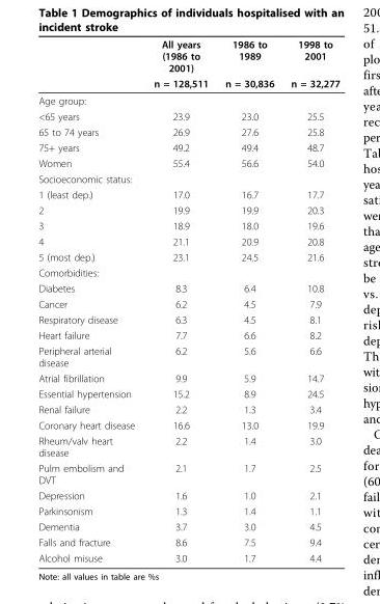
<table><thead><tr><td rowspan="2"></td><td rowspan="2">All years (1986 to 2001) n = 128,511</td><td rowspan="2">1986 to 1989 n = 30,836</td><td rowspan="2">1998 to 2001 n = 32,277</td></tr><tr></tr></thead><tbody><tr><td colspan="4">Age group:</td></tr><tr><td>&lt;65 years</td><td>23.9</td><td>23.0</td><td>25.5</td></tr><tr><td>65 to 74 years</td><td>26.9</td><td>27.6</td><td>25.8</td></tr><tr><td>75+ years</td><td>49.2</td><td>49.4</td><td>48.7</td></tr><tr><td>Women</td><td>55.4</td><td>56.6</td><td>54.0</td></tr><tr><td colspan="4">Socioeconomic status:</td></tr><tr><td>1 (least dep.)</td><td>17.0</td><td>16.7</td><td>17.7</td></tr><tr><td>2</td><td>19.9</td><td>19.9</td><td>20.3</td></tr><tr><td>3</td><td>18.9</td><td>18.0</td><td>19.6</td></tr><tr><td>4</td><td>21.1</td><td>20.9</td><td>20.8</td></tr><tr><td>5 (most dep.)</td><td>23.1</td><td>24.5</td><td>21.6</td></tr><tr><td colspan="4">Comorbidities:</td></tr><tr><td>Diabetes</td><td>8.3</td><td>6.4</td><td>10.8</td></tr><tr><td>Cancer</td><td>6.2</td><td>4.5</td><td>7.9</td></tr><tr><td>Respiratory disease</td><td>6.3</td><td>4.5</td><td>8.1</td></tr><tr><td>Heart failure</td><td>7.7</td><td>6.6</td><td>8.2</td></tr><tr><td>Peripheral arterial disease</td><td>6.2</td><td>5.6</td><td>6.6</td></tr><tr><td>Atrial fibrillation</td><td>9.9</td><td>5.9</td><td>14.7</td></tr><tr><td>Essential hypertension</td><td>15.2</td><td>8.9</td><td>24.5</td></tr><tr><td>Renal failure</td><td>2.2</td><td>1.3</td><td>3.4</td></tr><tr><td>Coronary heart disease</td><td>16.6</td><td>13.0</td><td>19.9</td></tr><tr><td>Rheum/valv heart disease</td><td>2.2</td><td>1.4</td><td>3.0</td></tr><tr><td>Pulm embolism and DVT</td><td>2.1</td><td>1.7</td><td>2.5</td></tr><tr><td>Depression</td><td>1.6</td><td>1.0</td><td>2.1</td></tr><tr><td>Parkinsonism</td><td>1.3</td><td>1.4</td><td>1.1</td></tr><tr><td>Dementia</td><td>3.7</td><td>3.0</td><td>4.5</td></tr><tr><td>Falls and fracture</td><td>8.6</td><td>7.5</td><td>9.4</td></tr><tr><td>Alcohol misuse</td><td>3.0</td><td>1.7</td><td>4.4</td></tr></tbody></table>